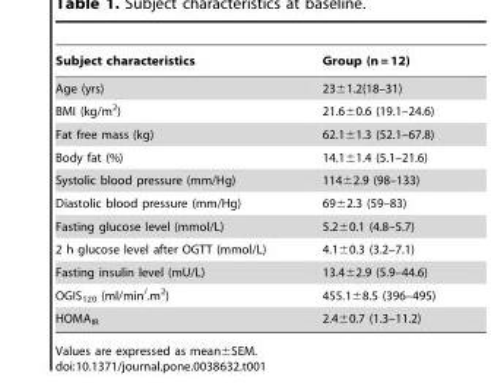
<table><thead><tr><td>Subject characteristics</td><td>Group (n = 12)</td></tr></thead><tbody><tr><td>Age (yrs)</td><td>23±1.2(18–31)</td></tr><tr><td>BMI (kg/m<sup>2</sup>)</td><td>21.6±0.6 (19.1–24.6)</td></tr><tr><td>Fat free mass (kg)</td><td>62.1±1.3 (52.1–67.8)</td></tr><tr><td>Body fat (%)</td><td>14.1±1.4 (5.1–21.6)</td></tr><tr><td>Systolic blood pressure (mm/Hg)</td><td>114±2.9 (98–133)</td></tr><tr><td>Diastolic blood pressure (mm/Hg)</td><td>69±2.3 (59–83)</td></tr><tr><td>Fasting glucose level (mmol/L)</td><td>5.2±0.1 (4.8–5.7)</td></tr><tr><td>2 h glucose level after OGTT (mmol/L)</td><td>4.1±0.3 (3.2–7.1)</td></tr><tr><td>Fasting insulin level (mU/L)</td><td>13.4±2.9 (5.9–44.6)</td></tr><tr><td>OGIS<sub>120</sub> (ml/min<sup>/</sup>.m<sup>2</sup>)</td><td>455.1±8.5 (396–495)</td></tr><tr><td>HOMA<sub>IR</sub></td><td>2.4±0.7 (1.3–11.2)</td></tr></tbody></table>